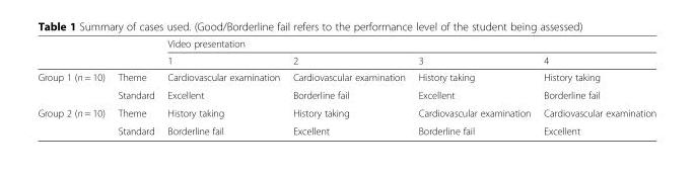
<table><thead><tr><td rowspan="2"></td><td rowspan="2"></td><td colspan="4">Video presentation</td></tr><tr><td>1</td><td>2</td><td>3</td><td>4</td></tr></thead><tbody><tr><td rowspan="2">Group 1 (n = 10)</td><td>Theme</td><td>Cardiovascular examination</td><td>Cardiovascular examination</td><td>History taking</td><td>History taking</td></tr><tr><td>Standard</td><td>Excellent</td><td>Borderline fail</td><td>Excellent</td><td>Borderline fail</td></tr><tr><td rowspan="2">Group 2 (n = 10)</td><td>Theme</td><td>History taking</td><td>History taking</td><td>Cardiovascular examination</td><td>Cardiovascular examination</td></tr><tr><td>Standard</td><td>Borderline fail</td><td>Excellent</td><td>Borderline fail</td><td>Excellent</td></tr></tbody></table>